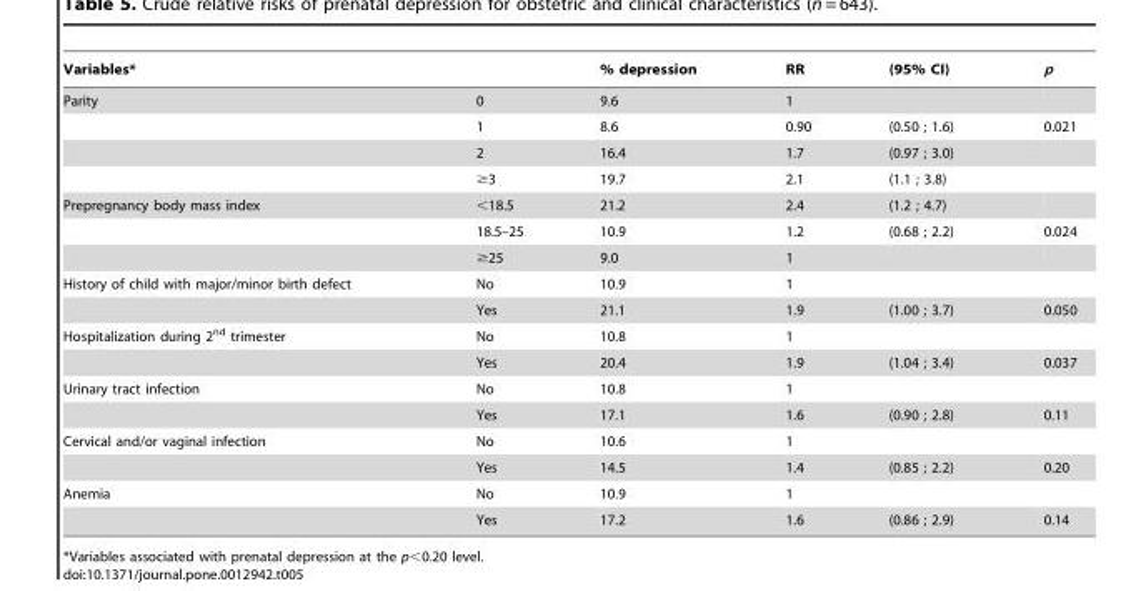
<table><thead><tr><td>Variables*</td><td></td><td>% depression</td><td>RR</td><td>(95% CI)</td><td>p</td></tr></thead><tbody><tr><td rowspan="4">Parity</td><td>0</td><td>9.6</td><td>1</td><td></td><td></td></tr><tr><td>1</td><td>8.6</td><td>0.90</td><td>(0.50 ; 1.6)</td><td>0.021</td></tr><tr><td>2</td><td>16.4</td><td>1.7</td><td>(0.97 ; 3.0)</td><td></td></tr><tr><td>≥3</td><td>19.7</td><td>2.1</td><td>(1.1 ; 3.8)</td><td></td></tr><tr><td rowspan="3">Prepregnancy body mass index</td><td>&lt;18.5</td><td>21.2</td><td>2.4</td><td>(1.2 ; 4.7)</td><td></td></tr><tr><td>18.5–25</td><td>10.9</td><td>1.2</td><td>(0.68 ; 2.2)</td><td>0.024</td></tr><tr><td>≥25</td><td>9.0</td><td>1</td><td></td><td></td></tr><tr><td rowspan="2">History of child with major/minor birth defect</td><td>No</td><td>10.9</td><td>1</td><td></td><td></td></tr><tr><td>Yes</td><td>21.1</td><td>1.9</td><td>(1.00 ; 3.7)</td><td>0.050</td></tr><tr><td rowspan="2">Hospitalization during 2<sup>nd</sup> trimester</td><td>No</td><td>10.8</td><td>1</td><td></td><td></td></tr><tr><td>Yes</td><td>20.4</td><td>1.9</td><td>(1.04 ; 3.4)</td><td>0.037</td></tr><tr><td rowspan="2">Urinary tract infection</td><td>No</td><td>10.8</td><td>1</td><td></td><td></td></tr><tr><td>Yes</td><td>17.1</td><td>1.6</td><td>(0.90 ; 2.8)</td><td>0.11</td></tr><tr><td rowspan="2">Cervical and/or vaginal infection</td><td>No</td><td>10.6</td><td>1</td><td></td><td></td></tr><tr><td>Yes</td><td>14.5</td><td>1.4</td><td>(0.85 ; 2.2)</td><td>0.20</td></tr><tr><td rowspan="2">Anemia</td><td>No</td><td>10.9</td><td>1</td><td></td><td></td></tr><tr><td>Yes</td><td>17.2</td><td>1.6</td><td>(0.86 ; 2.9)</td><td>0.14</td></tr></tbody></table>